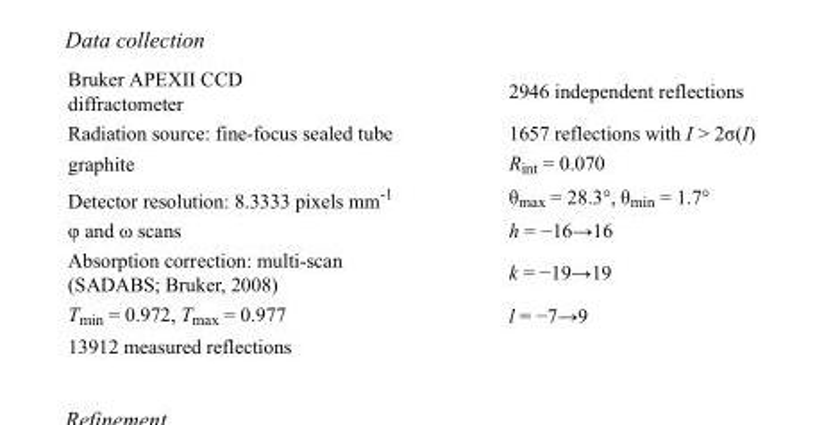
<table><tbody><tr><td>Bruker APEXII CCD diffractometer</td><td>2946 independent reflections</td></tr><tr><td>Radiation source: fine-focus sealed tube</td><td>1657 reflections with I &gt; 2σ(I)</td></tr><tr><td>graphite</td><td>R<sub>int</sub> = 0.070</td></tr><tr><td>Detector resolution: 8.3333 pixels mm<sup>-1</sup></td><td>θ<sub>max</sub> = 28.3°, θ<sub>min</sub> = 1.7°</td></tr><tr><td>φ and ω scans</td><td>h = −16→16</td></tr><tr><td>Absorption correction: multi-scan (SADABS; Bruker, 2008)</td><td>k = −19→19</td></tr><tr><td>T<sub>min</sub> = 0.972, T<sub>max</sub> = 0.977</td><td>l = −7→9</td></tr><tr><td>13912 measured reflections</td><td></td></tr></tbody></table>